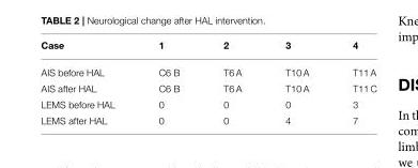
<table><thead><tr><td>Case</td><td>1</td><td>2</td><td>3</td><td>4</td></tr></thead><tbody><tr><td>AIS before HAL</td><td>C6 B</td><td>T6 A</td><td>T10 A</td><td>T11 A</td></tr><tr><td>AIS after HAL</td><td>C6 B</td><td>T6 A</td><td>T10 A</td><td>T11 C</td></tr><tr><td>LEMS before HAL</td><td>0</td><td>0</td><td>0</td><td>3</td></tr><tr><td>LEMS after HAL</td><td>0</td><td>0</td><td>4</td><td>7</td></tr></tbody></table>